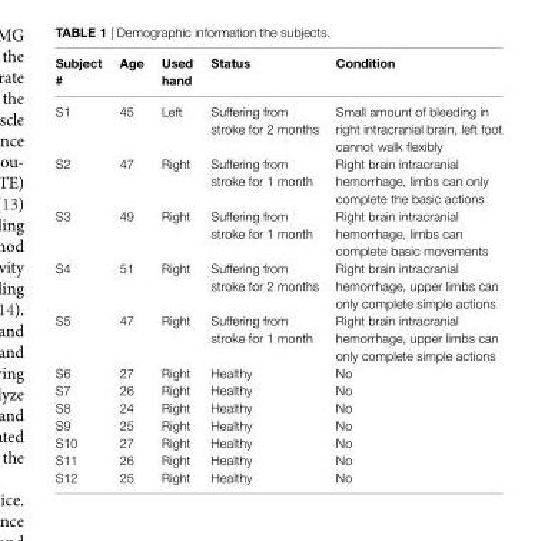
<table><thead><tr><td>subject #</td><td>age</td><td>Used hand</td><td>status</td><td>condition</td></tr></thead><tbody><tr><td>S1</td><td>45</td><td>Left</td><td>Suffering from stroke for 2 months</td><td>Small amount of bleeding in right intracranial brain, left foot cannot walk flexibly</td></tr><tr><td>S2</td><td>47</td><td>Right</td><td>Suffering from stroke for 1 month</td><td>Right brain intracranial hemorrhage, limbs can only complete the basic actions</td></tr><tr><td>S3</td><td>49</td><td>Right</td><td>Suffering from stroke for 1 month</td><td>Right brain intracranial hemorrhage, limbs can complete basic movements</td></tr><tr><td>S4</td><td>51</td><td>Right</td><td>Suffering from stroke for 2 months</td><td>Right brain intracranial hemorrhage, upper limbs can only complete simple actions</td></tr><tr><td>S5</td><td>47</td><td>Right</td><td>Suffering from stroke for 1 month</td><td>Right brain intracranial hemorrhage, upper limbs can only complete simple actions</td></tr><tr><td>S6</td><td>27</td><td>Right</td><td>Healthy</td><td>No</td></tr><tr><td>S7</td><td>26</td><td>Right</td><td>Healthy</td><td>No</td></tr><tr><td>S8</td><td>24</td><td>Right</td><td>Healthy</td><td>No</td></tr><tr><td>S9</td><td>25</td><td>Right</td><td>Healthy</td><td>No</td></tr><tr><td>S10</td><td>27</td><td>Right</td><td>Healthy</td><td>No</td></tr><tr><td>S11</td><td>26</td><td>Right</td><td>Healthy</td><td>No</td></tr><tr><td>S12</td><td>25</td><td>Right</td><td>Healthy</td><td>No</td></tr></tbody></table>